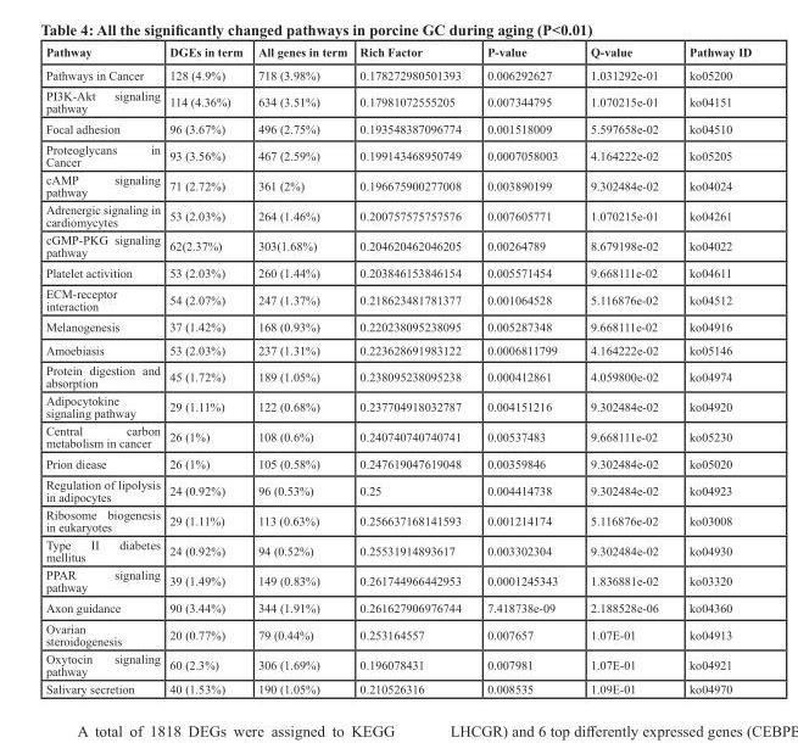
<table><thead><tr><td>Pathway</td><td>DGEs in term</td><td>All genes in term</td><td>Rich Factor</td><td>P-value</td><td>Q-value</td><td>Pathway ID</td></tr></thead><tbody><tr><td>Pathways in Cancer</td><td>128 (4.9%)</td><td>718 (3.98%)</td><td>0.178272980501393</td><td>0.006292627</td><td>1.031292e-01</td><td>ko05200</td></tr><tr><td>PI3K-Akt signaling pathway</td><td>114 (4.36%)</td><td>634 (3.51%)</td><td>0.17981072555205</td><td>0.007344795</td><td>1.070215e-01</td><td>ko04151</td></tr><tr><td>Focal adhesion</td><td>96 (3.67%)</td><td>496 (2.75%)</td><td>0.193548387096774</td><td>0.001518009</td><td>5.597658e-02</td><td>ko04510</td></tr><tr><td>Proteoglycans in Cancer</td><td>93 (3.56%)</td><td>467 (2.59%)</td><td>0.199143468950749</td><td>0.0007058003</td><td>4.164222e-02</td><td>ko05205</td></tr><tr><td>cAMP signaling pathway</td><td>71 (2.72%)</td><td>361 (2%)</td><td>0.196675900277008</td><td>0.003890199</td><td>9.302484e-02</td><td>ko04024</td></tr><tr><td>Adrenergic signaling in cardiomycytes</td><td>53 (2.03%)</td><td>264 (1.46%)</td><td>0.200757575757576</td><td>0.007605771</td><td>1.070215e-01</td><td>ko04261</td></tr><tr><td>cGMP-PKG signaling pathway</td><td>62(2.37%)</td><td>303(1.68%)</td><td>0.204620462046205</td><td>0.00264789</td><td>8.679198e-02</td><td>ko04022</td></tr><tr><td>Platelet activition</td><td>53 (2.03%)</td><td>260 (1.44%)</td><td>0.203846153846154</td><td>0.005571454</td><td>9.668111e-02</td><td>ko04611</td></tr><tr><td>ECM-receptor interaction</td><td>54 (2.07%)</td><td>247 (1.37%)</td><td>0.218623481781377</td><td>0.001064528</td><td>5.116876e-02</td><td>ko04512</td></tr><tr><td>Melanogenesis</td><td>37 (1.42%)</td><td>168 (0.93%)</td><td>0.220238095238095</td><td>0.005287348</td><td>9.668111e-02</td><td>ko04916</td></tr><tr><td>Amoebiasis</td><td>53 (2.03%)</td><td>237 (1.31%)</td><td>0.223628691983122</td><td>0.0006811799</td><td>4.164222e-02</td><td>ko05146</td></tr><tr><td>Protein digestion and absorption</td><td>45 (1.72%)</td><td>189 (1.05%)</td><td>0.238095238095238</td><td>0.000412861</td><td>4.059800e-02</td><td>ko04974</td></tr><tr><td>Adipocytokine signaling pathway</td><td>29 (1.11%)</td><td>122 (0.68%)</td><td>0.237704918032787</td><td>0.004151216</td><td>9.302484e-02</td><td>ko04920</td></tr><tr><td>Central carbon metabolism in cancer</td><td>26 (1%)</td><td>108 (0.6%)</td><td>0.240740740740741</td><td>0.00537483</td><td>9.668111e-02</td><td>ko05230</td></tr><tr><td>Prion diease</td><td>26 (1%)</td><td>105 (0.58%)</td><td>0.247619047619048</td><td>0.00359846</td><td>9.302484e-02</td><td>ko05020</td></tr><tr><td>Regulation of lipolysis in adipocytes</td><td>24 (0.92%)</td><td>96 (0.53%)</td><td>0.25</td><td>0.004414738</td><td>9.302484e-02</td><td>ko04923</td></tr><tr><td>Ribosome biogenesis in eukaryotes</td><td>29 (1.11%)</td><td>113 (0.63%)</td><td>0.256637168141593</td><td>0.001214174</td><td>5.116876e-02</td><td>ko03008</td></tr><tr><td>Type II diabetes mellitus</td><td>24 (0.92%)</td><td>94 (0.52%)</td><td>0.25531914893617</td><td>0.003302304</td><td>9.302484e-02</td><td>ko04930</td></tr><tr><td>PPAR signaling pathway</td><td>39 (1.49%)</td><td>149 (0.83%)</td><td>0.261744966442953</td><td>0.0001245343</td><td>1.836881e-02</td><td>ko03320</td></tr><tr><td>Axon guidance</td><td>90 (3.44%)</td><td>344 (1.91%)</td><td>0.261627906976744</td><td>7.418738e-09</td><td>2.188528e-06</td><td>ko04360</td></tr><tr><td>Ovarian steroidogenesis</td><td>20 (0.77%)</td><td>79 (0.44%)</td><td>0.253164557</td><td>0.007657</td><td>1.07E-01</td><td>ko04913</td></tr><tr><td>Oxytocin signaling pathway</td><td>60 (2.3%)</td><td>306 (1.69%)</td><td>0.196078431</td><td>0.007981</td><td>1.07E-01</td><td>ko04921</td></tr><tr><td>Salivary secretion</td><td>40 (1.53%)</td><td>190 (1.05%)</td><td>0.210526316</td><td>0.008535</td><td>1.09E-01</td><td>ko04970</td></tr></tbody></table>